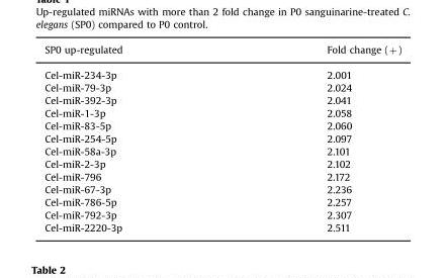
<table><thead><tr><td>SP0 up-regulated</td><td>Fold change (+)</td></tr></thead><tbody><tr><td>Cel-miR-234-3p</td><td>2.001</td></tr><tr><td>Cel-miR-79-3p</td><td>2.024</td></tr><tr><td>Cel-miR-392-3p</td><td>2.041</td></tr><tr><td>Cel-miR-1-3p</td><td>2.058</td></tr><tr><td>Cel-miR-83-5p</td><td>2.060</td></tr><tr><td>Cel-miR-254-5p</td><td>2.097</td></tr><tr><td>Cel-miR-58a-3p</td><td>2.101</td></tr><tr><td>Cel-miR-2-3p</td><td>2.102</td></tr><tr><td>Cel-miR-796</td><td>2.172</td></tr><tr><td>Cel-miR-67-3p</td><td>2.236</td></tr><tr><td>Cel-miR-786-5p</td><td>2.257</td></tr><tr><td>Cel-miR-792-3p</td><td>2.307</td></tr><tr><td>Cel-miR-2220-3p</td><td>2.511</td></tr></tbody></table>